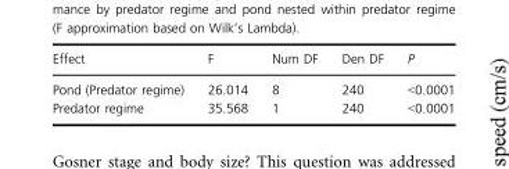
<table><thead><tr><td>Effect</td><td>F</td><td>Num DF</td><td>Den DF</td><td>P</td></tr></thead><tbody><tr><td>Pond (Predator regime)</td><td>26.014</td><td>8</td><td>240</td><td>&lt;0.0001</td></tr><tr><td>Predator regime</td><td>35.568</td><td>1</td><td>240</td><td>&lt;0.0001</td></tr></tbody></table>